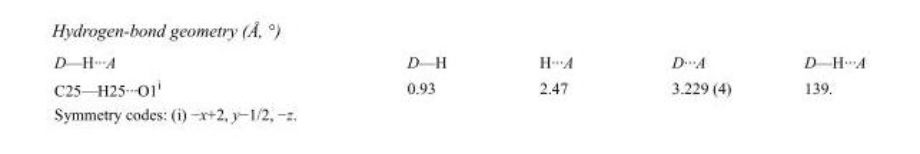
<table><tbody><tr><td>D—H···A</td><td>D—H</td><td>H···A</td><td>D···A</td><td>D—H···A</td></tr><tr><td>C25—H25···O1<sup>i</sup></td><td>0.93</td><td>2.47</td><td>3.229 (4)</td><td>139.</td></tr></tbody></table>